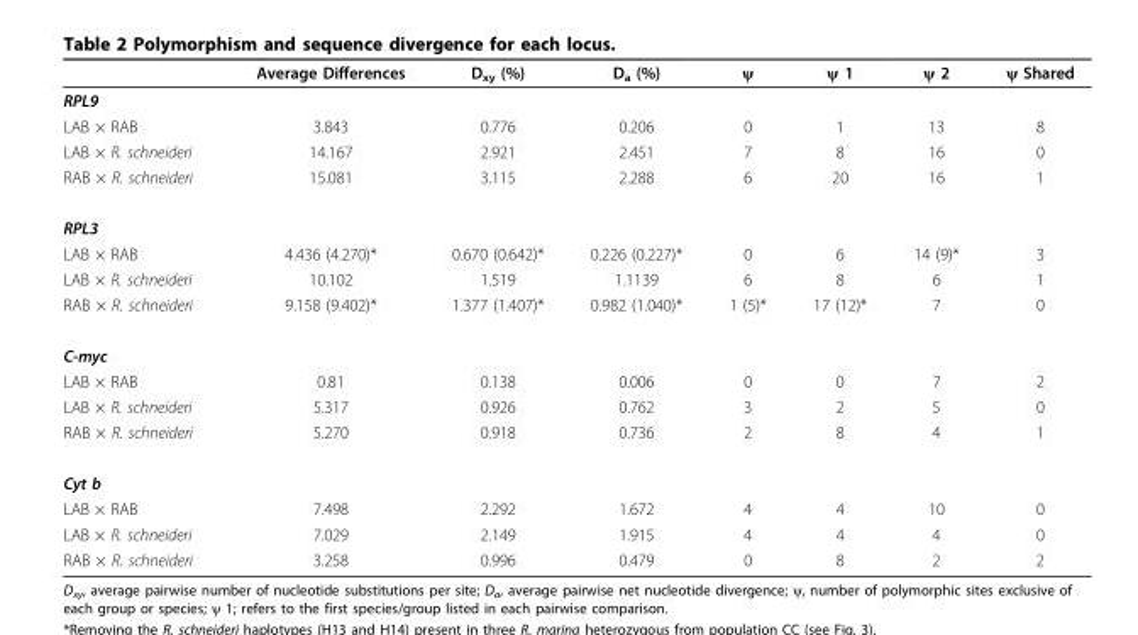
<table><thead><tr><td></td><td>Average Differences</td><td>D<sub>xy</sub> (%)</td><td>D<sub>a</sub> (%)</td><td>ψ</td><td>ψ 1</td><td>ψ 2</td><td>ψ Shared</td></tr></thead><tbody><tr><td colspan="8">RPL9</td></tr><tr><td>LAB × RAB</td><td>3.843</td><td>0.776</td><td>0.206</td><td>0</td><td>1</td><td>13</td><td>8</td></tr><tr><td>LAB × R. schneideri</td><td>14.167</td><td>2.921</td><td>2.451</td><td>7</td><td>8</td><td>16</td><td>0</td></tr><tr><td>RAB × R. schneideri</td><td>15.081</td><td>3.115</td><td>2.288</td><td>6</td><td>20</td><td>16</td><td>1</td></tr><tr><td colspan="8">RPL3</td></tr><tr><td>LAB × RAB</td><td>4.436 (4.270)*</td><td>0.670 (0.642)*</td><td>0.226 (0.227)*</td><td>0</td><td>6</td><td>14 (9)*</td><td>3</td></tr><tr><td>LAB × R. schneideri</td><td>10.102</td><td>1.519</td><td>1.1139</td><td>6</td><td>8</td><td>6</td><td>1</td></tr><tr><td>RAB × R. schneideri</td><td>9.158 (9.402)*</td><td>1.377 (1.407)*</td><td>0.982 (1.040)*</td><td>1 (5)*</td><td>17 (12)*</td><td>7</td><td>0</td></tr><tr><td colspan="8">C-myc</td></tr><tr><td>LAB × RAB</td><td>0.81</td><td>0.138</td><td>0.006</td><td>0</td><td>0</td><td>7</td><td>2</td></tr><tr><td>LAB × R. schneideri</td><td>5.317</td><td>0.926</td><td>0.762</td><td>3</td><td>2</td><td>5</td><td>0</td></tr><tr><td>RAB × R. schneideri</td><td>5.270</td><td>0.918</td><td>0.736</td><td>2</td><td>8</td><td>4</td><td>1</td></tr><tr><td colspan="8">Cyt b</td></tr><tr><td>LAB × RAB</td><td>7.498</td><td>2.292</td><td>1.672</td><td>4</td><td>4</td><td>10</td><td>0</td></tr><tr><td>LAB × R. schneideri</td><td>7.029</td><td>2.149</td><td>1.915</td><td>4</td><td>4</td><td>4</td><td>0</td></tr><tr><td>RAB × R. schneideri</td><td>3.258</td><td>0.996</td><td>0.479</td><td>0</td><td>8</td><td>2</td><td>2</td></tr></tbody></table>